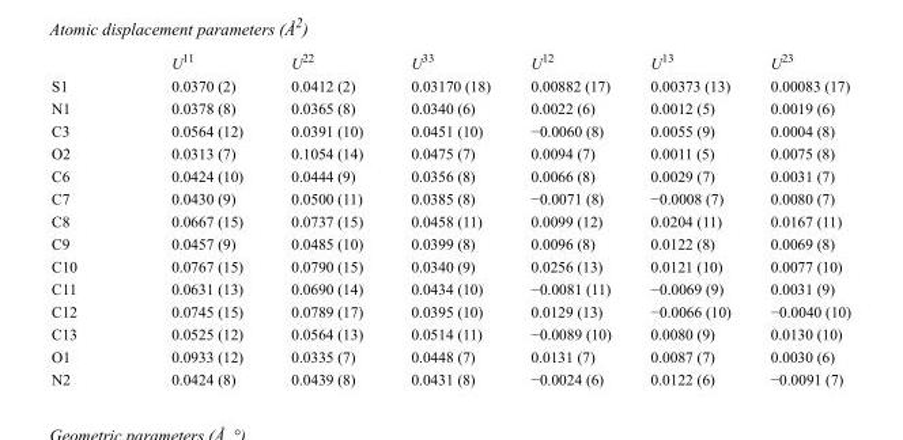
<table><thead><tr><td></td><td>U<sup>11</sup></td><td>U<sup>22</sup></td><td>U<sup>33</sup></td><td>U<sup>12</sup></td><td>U<sup>13</sup></td><td>U<sup>23</sup></td></tr></thead><tbody><tr><td>S1</td><td>0.0370 (2)</td><td>0.0412 (2)</td><td>0.03170 (18)</td><td>0.00882 (17)</td><td>0.00373 (13)</td><td>0.00083 (17)</td></tr><tr><td>N1</td><td>0.0378 (8)</td><td>0.0365 (8)</td><td>0.0340 (6)</td><td>0.0022 (6)</td><td>0.0012 (5)</td><td>0.0019 (6)</td></tr><tr><td>C3</td><td>0.0564 (12)</td><td>0.0391 (10)</td><td>0.0451 (10)</td><td>−0.0060 (8)</td><td>0.0055 (9)</td><td>0.0004 (8)</td></tr><tr><td>O2</td><td>0.0313 (7)</td><td>0.1054 (14)</td><td>0.0475 (7)</td><td>0.0094 (7)</td><td>0.0011 (5)</td><td>0.0075 (8)</td></tr><tr><td>C6</td><td>0.0424 (10)</td><td>0.0444 (9)</td><td>0.0356 (8)</td><td>0.0066 (8)</td><td>0.0029 (7)</td><td>0.0031 (7)</td></tr><tr><td>C7</td><td>0.0430 (9)</td><td>0.0500 (11)</td><td>0.0385 (8)</td><td>−0.0071 (8)</td><td>−0.0008 (7)</td><td>0.0080 (7)</td></tr><tr><td>C8</td><td>0.0667 (15)</td><td>0.0737 (15)</td><td>0.0458 (11)</td><td>0.0099 (12)</td><td>0.0204 (11)</td><td>0.0167 (11)</td></tr><tr><td>C9</td><td>0.0457 (9)</td><td>0.0485 (10)</td><td>0.0399 (8)</td><td>0.0096 (8)</td><td>0.0122 (8)</td><td>0.0069 (8)</td></tr><tr><td>C10</td><td>0.0767 (15)</td><td>0.0790 (15)</td><td>0.0340 (9)</td><td>0.0256 (13)</td><td>0.0121 (10)</td><td>0.0077 (10)</td></tr><tr><td>C11</td><td>0.0631 (13)</td><td>0.0690 (14)</td><td>0.0434 (10)</td><td>−0.0081 (11)</td><td>−0.0069 (9)</td><td>0.0031 (9)</td></tr><tr><td>C12</td><td>0.0745 (15)</td><td>0.0789 (17)</td><td>0.0395 (10)</td><td>0.0129 (13)</td><td>−0.0066 (10)</td><td>−0.0040 (10)</td></tr><tr><td>C13</td><td>0.0525 (12)</td><td>0.0564 (13)</td><td>0.0514 (11)</td><td>−0.0089 (10)</td><td>0.0080 (9)</td><td>0.0130 (10)</td></tr><tr><td>O1</td><td>0.0933 (12)</td><td>0.0335 (7)</td><td>0.0448 (7)</td><td>0.0131 (7)</td><td>0.0087 (7)</td><td>0.0030 (6)</td></tr><tr><td>N2</td><td>0.0424 (8)</td><td>0.0439 (8)</td><td>0.0431 (8)</td><td>−0.0024 (6)</td><td>0.0122 (6)</td><td>−0.0091 (7)</td></tr></tbody></table>